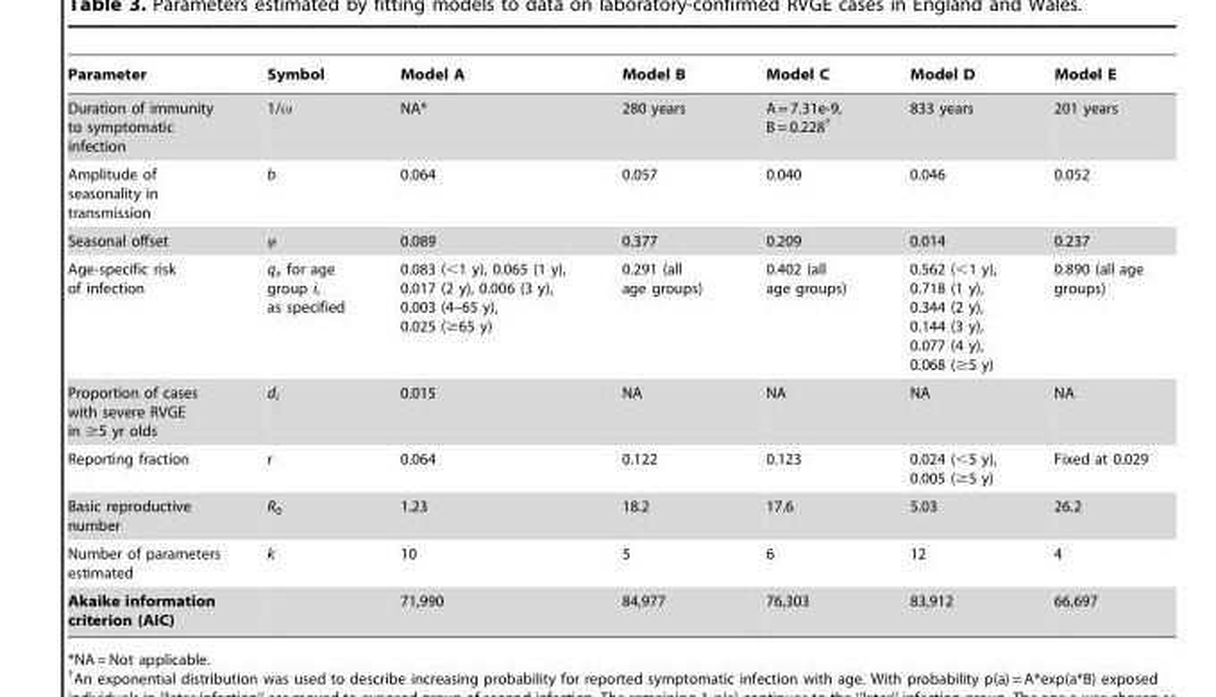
<table><thead><tr><td>Parameter</td><td>Symbol</td><td>Model A</td><td>Model B</td><td>Model C</td><td>Model D</td><td>Model E</td></tr></thead><tbody><tr><td>Duration of immunity to symptomatic infection</td><td>1/ω</td><td>NA*</td><td>280 years</td><td>A = 7.31e-9, B = 0.228†</td><td>833 years</td><td>201 years</td></tr><tr><td>Amplitude of seasonality in transmission</td><td>b</td><td>0.064</td><td>0.057</td><td>0.040</td><td>0.046</td><td>0.052</td></tr><tr><td>Seasonal offset</td><td>φ</td><td>0.089</td><td>0.377</td><td>0.209</td><td>0.014</td><td>0.237</td></tr><tr><td>Age-specific risk of infection</td><td>q<sub>i</sub>, for age group i, as specified</td><td>0.083 (&lt;1 y), 0.065 (1 y), 0.017 (2 y), 0.006 (3 y), 0.003 (4–65 y), 0.025 (≥65 y)</td><td>0.291 (all age groups)</td><td>0.402 (all age groups)</td><td>0.562 (&lt;1 y), 0.718 (1 y), 0.344 (2 y), 0.144 (3 y), 0.077 (4 y), 0.068 (≥5 y)</td><td>0.890 (all age groups)</td></tr><tr><td>Proportion of cases with severe RVGE in ≥5 yr olds</td><td>d<sub>i</sub></td><td>0.015</td><td>NA</td><td>NA</td><td>NA</td><td>NA</td></tr><tr><td>Reporting fraction</td><td>r</td><td>0.064</td><td>0.122</td><td>0.123</td><td>0.024 (&lt;5 y), 0.005 (≥5 y)</td><td>Fixed at 0.029</td></tr><tr><td>Basic reproductive number</td><td>R<sub>0</sub></td><td>1.23</td><td>18.2</td><td>17.6</td><td>5.03</td><td>26.2</td></tr><tr><td>Number of parameters estimated</td><td>k</td><td>10</td><td>5</td><td>6</td><td>12</td><td>4</td></tr><tr><td>Akaike information criterion (AIC)</td><td></td><td>71,990</td><td>84,977</td><td>76,303</td><td>83,912</td><td>66,697</td></tr></tbody></table>